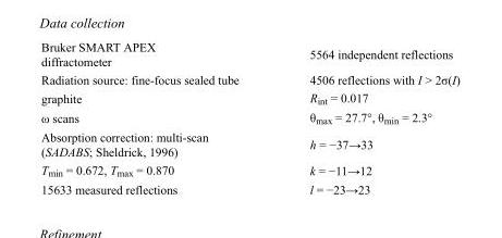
<table><tbody><tr><td>Bruker SMART APEX diffractometer</td><td>5564 independent reflections</td></tr><tr><td>Radiation source: fine-focus sealed tube</td><td>4506 reflections with I &gt; 2σ(I)</td></tr><tr><td>graphite</td><td>R<sub>int</sub> = 0.017</td></tr><tr><td>ω scans</td><td>θ<sub>max</sub> = 27.7°, θ<sub>min</sub> = 2.3°</td></tr><tr><td>Absorption correction: multi-scan (SADABS; Sheldrick, 1996)</td><td>h = −37→33</td></tr><tr><td>T<sub>min</sub> = 0.672, T<sub>max</sub> = 0.870</td><td>k = −11→12</td></tr><tr><td>15633 measured reflections</td><td>l = −23→23</td></tr></tbody></table>